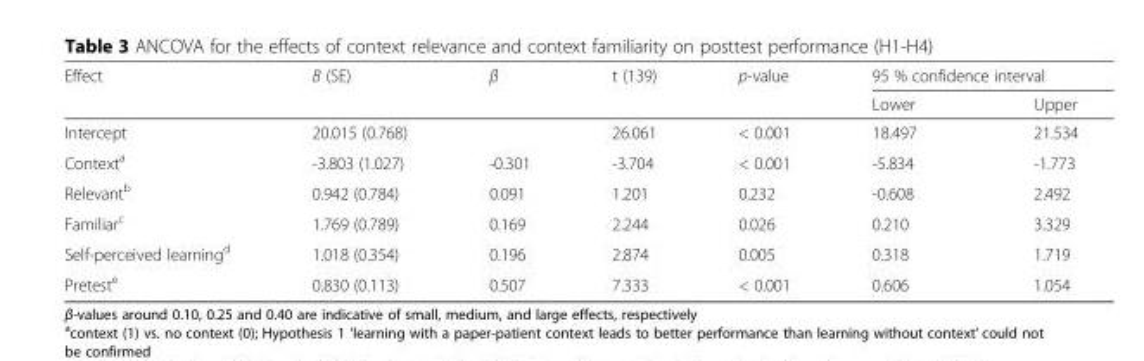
<table><thead><tr><td rowspan="2">Effect</td><td rowspan="2">B (SE)</td><td rowspan="2">β</td><td rowspan="2">t (139)</td><td rowspan="2">p-value</td><td colspan="2">95 % confidence interval</td></tr><tr><td>Lower</td><td>Upper</td></tr></thead><tbody><tr><td>Intercept</td><td>20.015 (0.768)</td><td></td><td>26.061</td><td>&lt; 0.001</td><td>18.497</td><td>21.534</td></tr><tr><td>Context<sup>a</sup></td><td>-3.803 (1.027)</td><td>-0.301</td><td>-3.704</td><td>&lt; 0.001</td><td>-5.834</td><td>-1.773</td></tr><tr><td>Relevant<sup>b</sup></td><td>0.942 (0.784)</td><td>0.091</td><td>1.201</td><td>0.232</td><td>-0.608</td><td>2.492</td></tr><tr><td>Familiar<sup>c</sup></td><td>1.769 (0.789)</td><td>0.169</td><td>2.244</td><td>0.026</td><td>0.210</td><td>3.329</td></tr><tr><td>Self-perceived learning<sup>d</sup></td><td>1.018 (0.354)</td><td>0.196</td><td>2.874</td><td>0.005</td><td>0.318</td><td>1.719</td></tr><tr><td>Pretest<sup>e</sup></td><td>0.830 (0.113)</td><td>0.507</td><td>7.333</td><td>&lt; 0.001</td><td>0.606</td><td>1.054</td></tr></tbody></table>